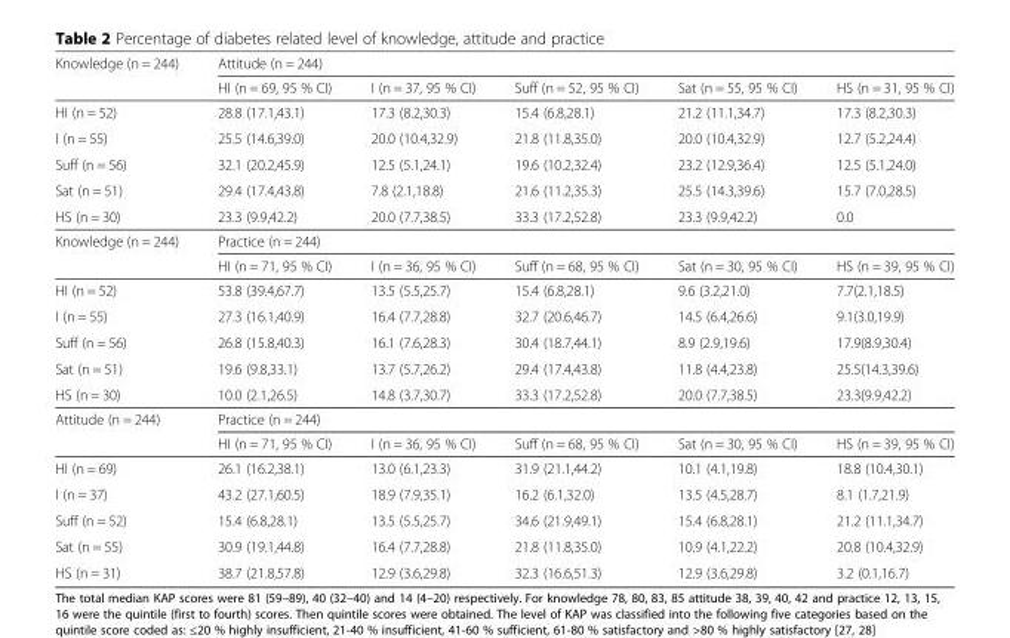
<table><thead><tr><td rowspan="2">Knowledge (n = 244)</td><td colspan="5">Attitude (n = 244)</td></tr><tr><td>HI (n = 69, 95 % CI)</td><td>I (n = 37, 95 % CI)</td><td>Suff (n = 52, 95 % CI)</td><td>Sat (n = 55, 95 % CI)</td><td>HS (n = 31, 95 % CI)</td></tr></thead><tbody><tr><td>HI (n = 52)</td><td>28.8 (17.1,43.1)</td><td>17.3 (8.2,30.3)</td><td>15.4 (6.8,28.1)</td><td>21.2 (11.1,34.7)</td><td>17.3 (8.2,30.3)</td></tr><tr><td>I (n = 55)</td><td>25.5 (14.6,39.0)</td><td>20.0 (10.4,32.9)</td><td>21.8 (11.8,35.0)</td><td>20.0 (10.4,32.9)</td><td>12.7 (5.2,24.4)</td></tr><tr><td>Suff (n = 56)</td><td>32.1 (20.2,45.9)</td><td>12.5 (5.1,24.1)</td><td>19.6 (10.2,32.4)</td><td>23.2 (12.9,36.4)</td><td>12.5 (5.1,24.0)</td></tr><tr><td>Sat (n = 51)</td><td>29.4 (17.4,43.8)</td><td>7.8 (2.1,18.8)</td><td>21.6 (11.2,35.3)</td><td>25.5 (14.3,39.6)</td><td>15.7 (7.0,28.5)</td></tr><tr><td>HS (n = 30)</td><td>23.3 (9.9,42.2)</td><td>20.0 (7.7,38.5)</td><td>33.3 (17.2,52.8)</td><td>23.3 (9.9,42.2)</td><td>0.0</td></tr><tr><td rowspan="2">Knowledge (n = 244)</td><td colspan="5">Practice (n = 244)</td></tr><tr><td>HI (n = 71, 95 % CI)</td><td>I (n = 36, 95 % CI)</td><td>Suff (n = 68, 95 % CI)</td><td>Sat (n = 30, 95 % CI)</td><td>HS (n = 39, 95 % CI)</td></tr><tr><td>HI (n = 52)</td><td>53.8 (39.4,67.7)</td><td>13.5 (5.5,25.7)</td><td>15.4 (6.8,28.1)</td><td>9.6 (3.2,21.0)</td><td>7.7(2.1,18.5)</td></tr><tr><td>I (n = 55)</td><td>27.3 (16.1,40.9)</td><td>16.4 (7.7,28.8)</td><td>32.7 (20.6,46.7)</td><td>14.5 (6.4,26.6)</td><td>9.1(3.0,19.9)</td></tr><tr><td>Suff (n = 56)</td><td>26.8 (15.8,40.3)</td><td>16.1 (7.6,28.3)</td><td>30.4 (18.7,44.1)</td><td>8.9 (2.9,19.6)</td><td>17.9(8.9,30.4)</td></tr><tr><td>Sat (n = 51)</td><td>19.6 (9.8,33.1)</td><td>13.7 (5.7,26.2)</td><td>29.4 (17.4,43.8)</td><td>11.8 (4.4,23.8)</td><td>25.5(14.3,39.6)</td></tr><tr><td>HS (n = 30)</td><td>10.0 (2.1,26.5)</td><td>14.8 (3.7,30.7)</td><td>33.3 (17.2,52.8)</td><td>20.0 (7.7,38.5)</td><td>23.3(9.9,42.2)</td></tr><tr><td rowspan="2">Attitude (n = 244)</td><td colspan="5">Practice (n = 244)</td></tr><tr><td>HI (n = 71, 95 % CI)</td><td>I (n = 36, 95 % CI)</td><td>Suff (n = 68, 95 % CI)</td><td>Sat (n = 30, 95 % CI)</td><td>HS (n = 39, 95 % CI)</td></tr><tr><td>HI (n = 69)</td><td>26.1 (16.2,38.1)</td><td>13.0 (6.1,23.3)</td><td>31.9 (21.1,44.2)</td><td>10.1 (4.1,19.8)</td><td>18.8 (10.4,30.1)</td></tr><tr><td>I (n = 37)</td><td>43.2 (27.1,60.5)</td><td>18.9 (7.9,35.1)</td><td>16.2 (6.1,32.0)</td><td>13.5 (4.5,28.7)</td><td>8.1 (1.7,21.9)</td></tr><tr><td>Suff (n = 52)</td><td>15.4 (6.8,28.1)</td><td>13.5 (5.5,25.7)</td><td>34.6 (21.9,49.1)</td><td>15.4 (6.8,28.1)</td><td>21.2 (11.1,34.7)</td></tr><tr><td>Sat (n = 55)</td><td>30.9 (19.1,44.8)</td><td>16.4 (7.7,28.8)</td><td>21.8 (11.8,35.0)</td><td>10.9 (4.1,22.2)</td><td>20.8 (10.4,32.9)</td></tr><tr><td>HS (n = 31)</td><td>38.7 (21.8,57.8)</td><td>12.9 (3.6,29.8)</td><td>32.3 (16.6,51.3)</td><td>12.9 (3.6,29.8)</td><td>3.2 (0.1,16.7)</td></tr></tbody></table>